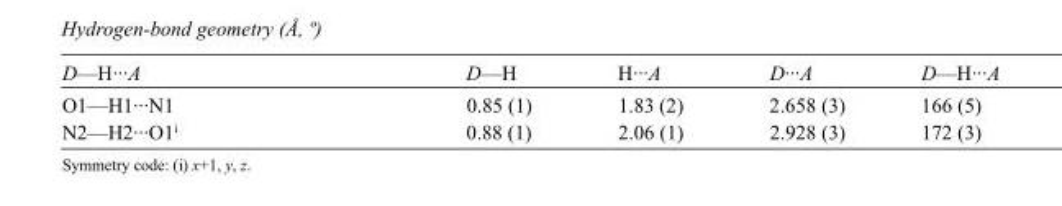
<table><tbody><tr><td>D—H···A</td><td>D—H</td><td>H···A</td><td>D···A</td><td>D—H···A</td></tr><tr><td>O1—H1···N1</td><td>0.85 (1)</td><td>1.83 (2)</td><td>2.658 (3)</td><td>166 (5)</td></tr><tr><td>N2—H2···O1<sup>i</sup></td><td>0.88 (1)</td><td>2.06 (1)</td><td>2.928 (3)</td><td>172 (3)</td></tr></tbody></table>